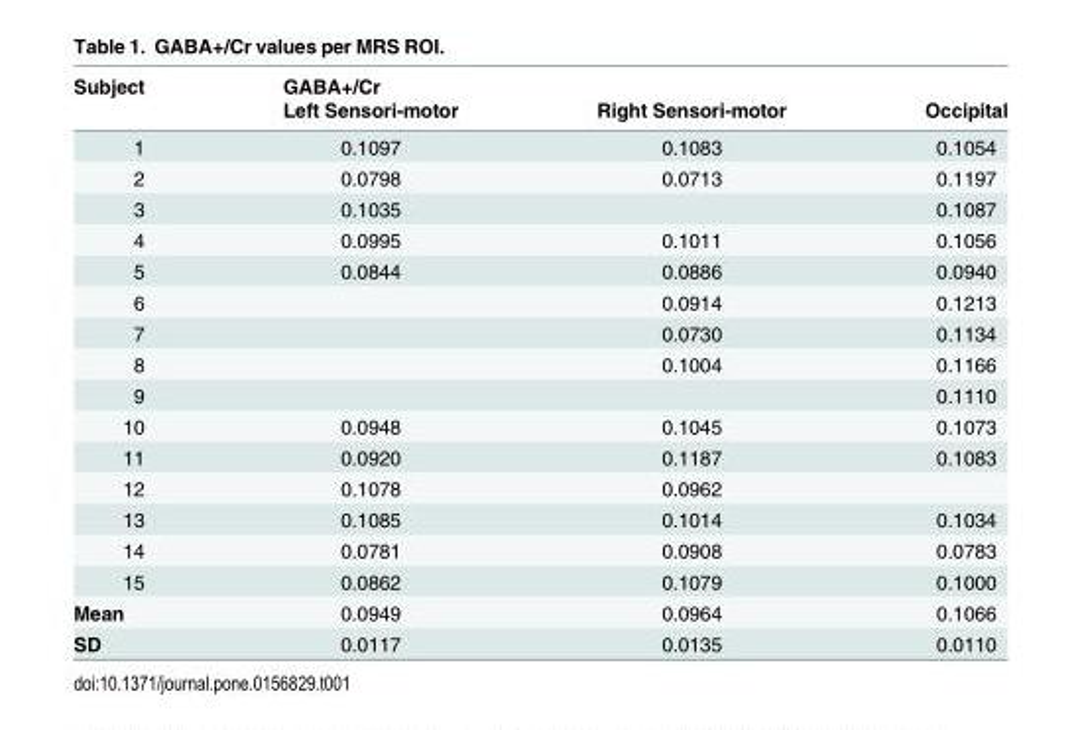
<table><thead><tr><td rowspan="2">Subject</td><td rowspan="2">GABA+/Cr Left Sensori-motor</td><td rowspan="2">Right Sensori-motor</td><td rowspan="2">Occipital</td></tr><tr></tr></thead><tbody><tr><td>1</td><td>0.1097</td><td>0.1083</td><td>0.1054</td></tr><tr><td>2</td><td>0.0798</td><td>0.0713</td><td>0.1197</td></tr><tr><td>3</td><td>0.1035</td><td></td><td>0.1087</td></tr><tr><td>4</td><td>0.0995</td><td>0.1011</td><td>0.1056</td></tr><tr><td>5</td><td>0.0844</td><td>0.0886</td><td>0.0940</td></tr><tr><td>6</td><td></td><td>0.0914</td><td>0.1213</td></tr><tr><td>7</td><td></td><td>0.0730</td><td>0.1134</td></tr><tr><td>8</td><td></td><td>0.1004</td><td>0.1166</td></tr><tr><td>9</td><td></td><td></td><td>0.1110</td></tr><tr><td>10</td><td>0.0948</td><td>0.1045</td><td>0.1073</td></tr><tr><td>11</td><td>0.0920</td><td>0.1187</td><td>0.1083</td></tr><tr><td>12</td><td>0.1078</td><td>0.0962</td><td></td></tr><tr><td>13</td><td>0.1085</td><td>0.1014</td><td>0.1034</td></tr><tr><td>14</td><td>0.0781</td><td>0.0908</td><td>0.0783</td></tr><tr><td>15</td><td>0.0862</td><td>0.1079</td><td>0.1000</td></tr><tr><td>Mean</td><td>0.0949</td><td>0.0964</td><td>0.1066</td></tr><tr><td>SD</td><td>0.0117</td><td>0.0135</td><td>0.0110</td></tr></tbody></table>